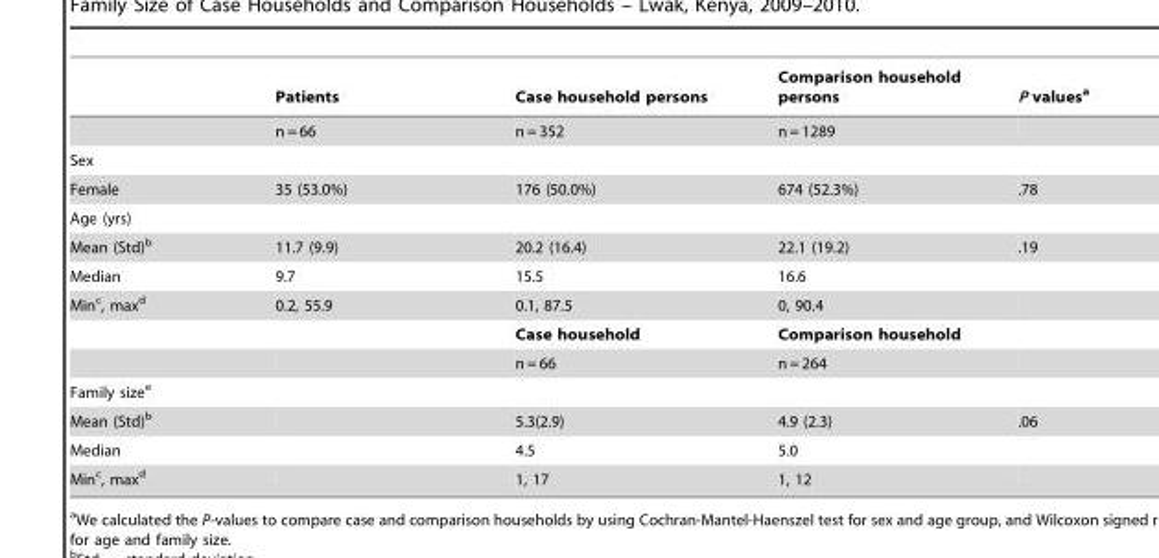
<table><thead><tr><td></td><td>Patients</td><td>Case household persons</td><td>Comparison household persons</td><td>P values<sup>a</sup></td></tr></thead><tbody><tr><td></td><td>n = 66</td><td>n = 352</td><td>n = 1289</td><td></td></tr><tr><td colspan="5">Sex</td></tr><tr><td>Female</td><td>35 (53.0%)</td><td>176 (50.0%)</td><td>674 (52.3%)</td><td>.78</td></tr><tr><td colspan="5">Age (yrs)</td></tr><tr><td>Mean (Std)<sup>b</sup></td><td>11.7 (9.9)</td><td>20.2 (16.4)</td><td>22.1 (19.2)</td><td>.19</td></tr><tr><td>Median</td><td>9.7</td><td>15.5</td><td>16.6</td><td></td></tr><tr><td rowspan="3">Min<sup>c</sup>, max<sup>d</sup></td><td>0.2, 55.9</td><td>0.1, 87.5</td><td>0, 90.4</td><td></td></tr><tr><td></td><td>Case household</td><td>Comparison household</td><td></td></tr><tr><td></td><td>n = 66</td><td>n = 264</td><td></td></tr><tr><td colspan="5">Family size<sup>e</sup></td></tr><tr><td>Mean (Std)<sup>b</sup></td><td></td><td>5.3(2.9)</td><td>4.9 (2.3)</td><td>.06</td></tr><tr><td>Median</td><td></td><td>4.5</td><td>5.0</td><td></td></tr><tr><td>Min<sup>c</sup>, max<sup>d</sup></td><td></td><td>1, 17</td><td>1, 12</td><td></td></tr></tbody></table>